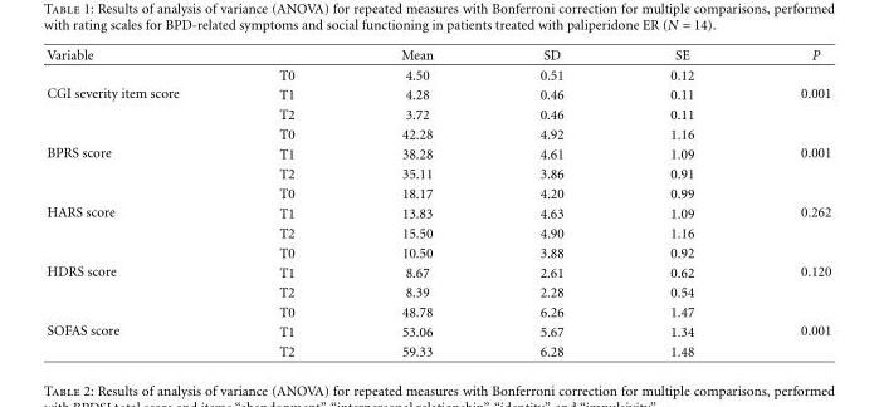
<table><thead><tr><td>Variable</td><td></td><td>Mean</td><td>SD</td><td>SE</td><td>P</td></tr></thead><tbody><tr><td rowspan="3">CGI severity item score</td><td>T0</td><td>4.50</td><td>0.51</td><td>0.12</td><td rowspan="3">0.001</td></tr><tr><td>T1</td><td>4.28</td><td>0.46</td><td>0.11</td></tr><tr><td>T2</td><td>3.72</td><td>0.46</td><td>0.11</td></tr><tr><td rowspan="3">BPRS score</td><td>T0</td><td>42.28</td><td>4.92</td><td>1.16</td><td rowspan="3">0.001</td></tr><tr><td>T1</td><td>38.28</td><td>4.61</td><td>1.09</td></tr><tr><td>T2</td><td>35.11</td><td>3.86</td><td>0.91</td></tr><tr><td rowspan="3">HARS score</td><td>T0</td><td>18.17</td><td>4.20</td><td>0.99</td><td rowspan="3">0.262</td></tr><tr><td>T1</td><td>13.83</td><td>4.63</td><td>1.09</td></tr><tr><td>T2</td><td>15.50</td><td>4.90</td><td>1.16</td></tr><tr><td rowspan="3">HDRS score</td><td>T0</td><td>10.50</td><td>3.88</td><td>0.92</td><td rowspan="3">0.120</td></tr><tr><td>T1</td><td>8.67</td><td>2.61</td><td>0.62</td></tr><tr><td>T2</td><td>8.39</td><td>2.28</td><td>0.54</td></tr><tr><td rowspan="3">SOFAS score</td><td>T0</td><td>48.78</td><td>6.26</td><td>1.47</td><td rowspan="3">0.001</td></tr><tr><td>T1</td><td>53.06</td><td>5.67</td><td>1.34</td></tr><tr><td>T2</td><td>59.33</td><td>6.28</td><td>1.48</td></tr></tbody></table>